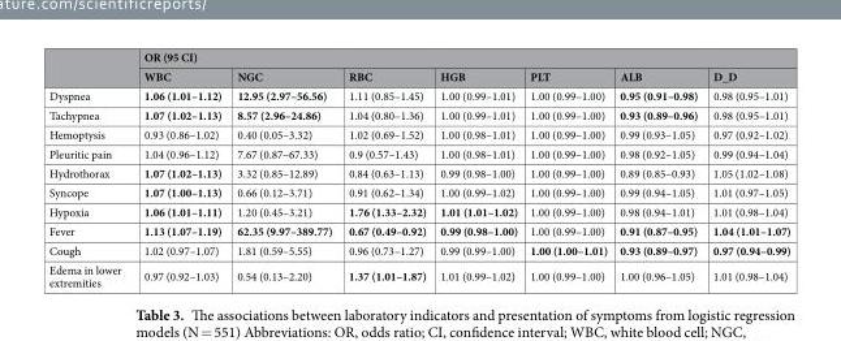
<table><thead><tr><td rowspan="2"></td><td colspan="7">OR (95 CI)</td></tr><tr><td>WBC</td><td>NGC</td><td>RBC</td><td>HGB</td><td>PLT</td><td>ALB</td><td>D_D</td></tr></thead><tbody><tr><td>Dyspnea</td><td>1.06 (1.01–1.12)</td><td>12.95 (2.97–56.56)</td><td>1.11 (0.85–1.45)</td><td>1.00 (0.99–1.01)</td><td>1.00 (0.99–1.00)</td><td>0.95 (0.91–0.98)</td><td>0.98 (0.95–1.01)</td></tr><tr><td>Tachypnea</td><td>1.07 (1.02–1.13)</td><td>8.57 (2.96–24.86)</td><td>1.04 (0.80–1.36)</td><td>1.00 (0.99–1.01)</td><td>1.00 (0.99–1.00)</td><td>0.93 (0.89–0.96)</td><td>0.98 (0.95–1.01)</td></tr><tr><td>Hemoptysis</td><td>0.93 (0.86–1.02)</td><td>0.40 (0.05–3.32)</td><td>1.02 (0.69–1.52)</td><td>1.00 (0.98–1.01)</td><td>1.00 (0.99–1.00)</td><td>0.99 (0.93–1.05)</td><td>0.97 (0.92–1.02)</td></tr><tr><td>Pleuritic pain</td><td>1.04 (0.96–1.12)</td><td>7.67 (0.87–67.33)</td><td>0.9 (0.57–1.43)</td><td>1.00 (0.98–1.01)</td><td>1.00 (0.99–1.00)</td><td>0.98 (0.92–1.05)</td><td>0.99 (0.94–1.04)</td></tr><tr><td>Hydrothorax</td><td>1.07 (1.02–1.13)</td><td>3.32 (0.85–12.89)</td><td>0.84 (0.63–1.13)</td><td>0.99 (0.98–1.00)</td><td>1.00 (0.99–1.00)</td><td>0.89 (0.85–0.93)</td><td>1.05 (1.02–1.08)</td></tr><tr><td>Syncope</td><td>1.07 (1.00–1.13)</td><td>0.66 (0.12–3.71)</td><td>0.91 (0.62–1.34)</td><td>1.00 (0.99–1.02)</td><td>1.00 (0.99–1.00)</td><td>0.99 (0.94–1.05)</td><td>1.01 (0.97–1.05)</td></tr><tr><td>Hypoxia</td><td>1.06 (1.01–1.11)</td><td>1.20 (0.45–3.21)</td><td>1.76 (1.33–2.32)</td><td>1.01 (1.01–1.02)</td><td>1.00 (0.99–1.00)</td><td>0.98 (0.94–1.01)</td><td>1.01 (0.98–1.04)</td></tr><tr><td>Fever</td><td>1.13 (1.07–1.19)</td><td>62.35 (9.97–389.77)</td><td>0.67 (0.49–0.92)</td><td>0.99 (0.98–1.00)</td><td>1.00 (0.99–1.00)</td><td>0.91 (0.87–0.95)</td><td>1.04 (1.01–1.07)</td></tr><tr><td>Cough</td><td>1.02 (0.97–1.07)</td><td>1.81 (0.59–5.55)</td><td>0.96 (0.73–1.27)</td><td>0.99 (0.99–1.00)</td><td>1.00 (1.00–1.01)</td><td>0.93 (0.89–0.97)</td><td>0.97 (0.94–0.99)</td></tr><tr><td>Edema in lower extremities</td><td>0.97 (0.92–1.03)</td><td>0.54 (0.13–2.20)</td><td>1.37 (1.01–1.87)</td><td>1.01 (0.99–1.02)</td><td>1.00 (0.99–1.00)</td><td>1.00 (0.96–1.05)</td><td>1.01 (0.98–1.04)</td></tr></tbody></table>